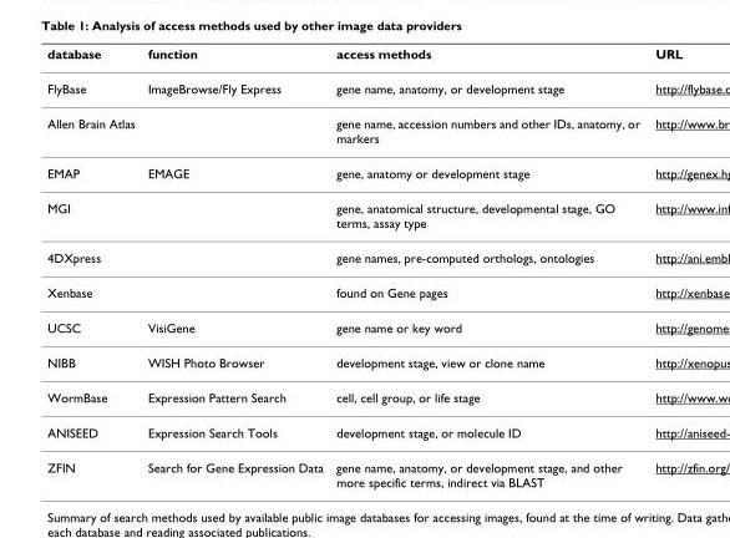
<table><thead><tr><td>database</td><td>function</td><td>access methods</td><td>URL</td></tr></thead><tbody><tr><td>FlyBase</td><td>ImageBrowse/Fly Express</td><td>gene name, anatomy, or development stage</td><td></td></tr><tr><td>Allen Brain Atlas</td><td></td><td>gene name, accession numbers and other IDs, anatomy, or markers</td><td></td></tr><tr><td>EMAP</td><td>EMAGE</td><td>gene, anatomy or development stage</td><td></td></tr><tr><td>MGI</td><td></td><td>gene, anatomical structure, developmental stage, GO terms, assay type</td><td></td></tr><tr><td>4DXpress</td><td></td><td>gene names, pre-computed orthologs, ontologies</td><td></td></tr><tr><td>Xenbase</td><td></td><td>found on Gene pages</td><td></td></tr><tr><td>UCSC</td><td>VisiGene</td><td>gene name or key word</td><td></td></tr><tr><td>NIBB</td><td>WISH Photo Browser</td><td>development stage, view or clone name</td><td></td></tr><tr><td>WormBase</td><td>Expression Pattern Search</td><td>cell, cell group, or life stage</td><td></td></tr><tr><td>ANISEED</td><td>Expression Search Tools</td><td>development stage, or molecule ID</td><td></td></tr><tr><td>ZFIN</td><td>Search for Gene Expression Data</td><td>gene name, anatomy, or development stage, and other more specific terms, indirect via BLAST</td><td></td></tr></tbody></table>